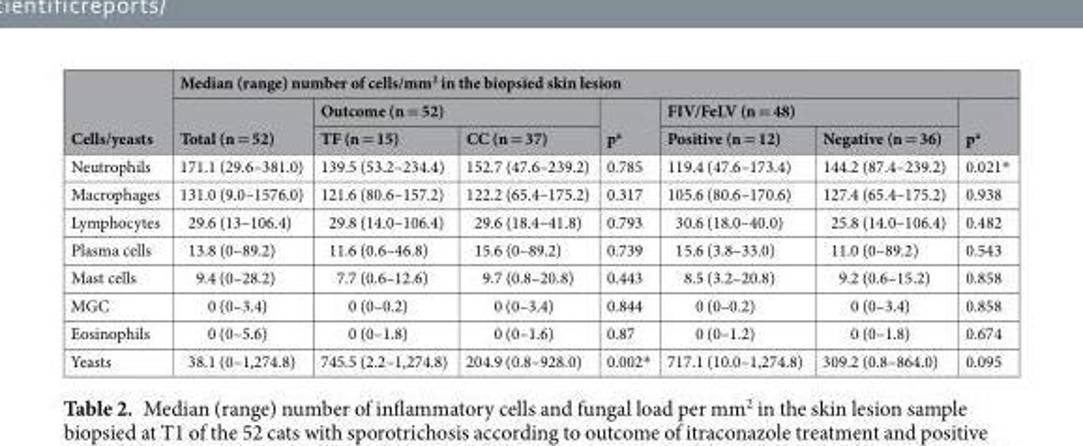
<table><thead><tr><td rowspan="3">Cells/yeasts</td><td colspan="7">Median (range) number of cells/mm<sup>2</sup> in the biopsied skin lesion</td></tr><tr><td rowspan="2">Total (n = 52)</td><td colspan="2">Outcome (n = 52)</td><td rowspan="2">p<sup>a</sup></td><td colspan="2">FIV/FeLV (n = 48)</td><td rowspan="2">p<sup>a</sup></td></tr><tr><td>TF (n = 15)</td><td>CC (n = 37)</td><td>Positive (n = 12)</td><td>Negative (n = 36)</td></tr></thead><tbody><tr><td>Neutrophils</td><td>171.1 (29.6–381.0)</td><td>139.5 (53.2–234.4)</td><td>152.7 (47.6–239.2)</td><td>0.785</td><td>119.4 (47.6–173.4)</td><td>144.2 (87.4–239.2)</td><td>0.021*</td></tr><tr><td>Macrophages</td><td>131.0 (9.0–1576.0)</td><td>121.6 (80.6–157.2)</td><td>122.2 (65.4–175.2)</td><td>0.317</td><td>105.6 (80.6–170.6)</td><td>127.4 (65.4–175.2)</td><td>0.938</td></tr><tr><td>Lymphocytes</td><td>29.6 (13–106.4)</td><td>29.8 (14.0–106.4)</td><td>29.6 (18.4–41.8)</td><td>0.793</td><td>30.6 (18.0–40.0)</td><td>25.8 (14.0–106.4)</td><td>0.482</td></tr><tr><td>Plasma cells</td><td>13.8 (0–89.2)</td><td>11.6 (0.6–46.8)</td><td>15.6 (0–89.2)</td><td>0.739</td><td>15.6 (3.8–33.0)</td><td>11.0 (0–89.2)</td><td>0.543</td></tr><tr><td>Mast cells</td><td>9.4 (0–28.2)</td><td>7.7 (0.6–12.6)</td><td>9.7 (0.8–20.8)</td><td>0.443</td><td>8.5 (3.2–20.8)</td><td>9.2 (0.6–15.2)</td><td>0.858</td></tr><tr><td>MGC</td><td>0 (0–3.4)</td><td>0 (0–0.2)</td><td>0 (0–3.4)</td><td>0.844</td><td>0 (0–0.2)</td><td>0 (0–3.4)</td><td>0.858</td></tr><tr><td>Eosinophils</td><td>0 (0–5.6)</td><td>0 (0–1.8)</td><td>0 (0–1.6)</td><td>0.87</td><td>0 (0–1.2)</td><td>0 (0–1.8)</td><td>0.674</td></tr><tr><td>Yeasts</td><td>38.1 (0–1,274.8)</td><td>745.5 (2.2–1,274.8)</td><td>204.9 (0.8–928.0)</td><td>0.002*</td><td>717.1 (10.0–1,274.8)</td><td>309.2 (0.8–864.0)</td><td>0.095</td></tr></tbody></table>